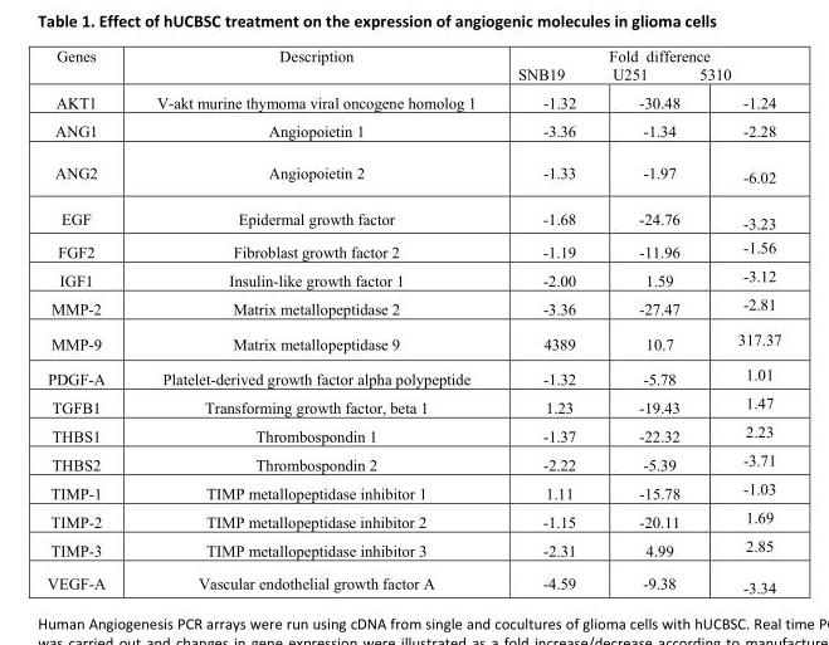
<table><thead><tr><td rowspan="2">Genes</td><td rowspan="2">Description</td><td colspan="3">Fold difference</td></tr><tr><td>SNB19</td><td>U251</td><td>5310</td></tr></thead><tbody><tr><td>AKT1</td><td>V-akt murine thymoma viral oncogene homolog 1</td><td>-1.32</td><td>-30.48</td><td>-1.24</td></tr><tr><td>ANG1</td><td>Angiopoietin 1</td><td>-3.36</td><td>-1.34</td><td>-2.28</td></tr><tr><td>ANG2</td><td>Angiopoietin 2</td><td>-1.33</td><td>-1.97</td><td>-6.02</td></tr><tr><td>EGF</td><td>Epidermal growth factor</td><td>-1.68</td><td>-24.76</td><td>-3.23</td></tr><tr><td>FGF2</td><td>Fibroblast growth factor 2</td><td>-1.19</td><td>-11.96</td><td>-1.56</td></tr><tr><td>IGF1</td><td>Insulin-like growth factor 1</td><td>-2.00</td><td>1.59</td><td>-3.12</td></tr><tr><td>MMP-2</td><td>Matrix metallopeptidase 2</td><td>-3.36</td><td>-27.47</td><td>-2.81</td></tr><tr><td>MMP-9</td><td>Matrix metallopeptidase 9</td><td>4389</td><td>10.7</td><td>317.37</td></tr><tr><td>PDGF-A</td><td>Platelet-derived growth factor alpha polypeptide</td><td>-1.32</td><td>-5.78</td><td>1.01</td></tr><tr><td>TGFB1</td><td>Transforming growth factor, beta 1</td><td>1.23</td><td>-19.43</td><td>1.47</td></tr><tr><td>THBS1</td><td>Thrombospondin 1</td><td>-1.37</td><td>-22.32</td><td>2.23</td></tr><tr><td>THBS2</td><td>Thrombospondin 2</td><td>-2.22</td><td>-5.39</td><td>-3.71</td></tr><tr><td>TIMP-1</td><td>TIMP metallopeptidase inhibitor 1</td><td>1.11</td><td>-15.78</td><td>-1.03</td></tr><tr><td>TIMP-2</td><td>TIMP metallopeptidase inhibitor 2</td><td>-1.15</td><td>-20.11</td><td>1.69</td></tr><tr><td>TIMP-3</td><td>TIMP metallopeptidase inhibitor 3</td><td>-2.31</td><td>4.99</td><td>2.85</td></tr><tr><td>VEGF-A</td><td>Vascular endothelial growth factor A</td><td>-4.59</td><td>-9.38</td><td>-3.34</td></tr></tbody></table>